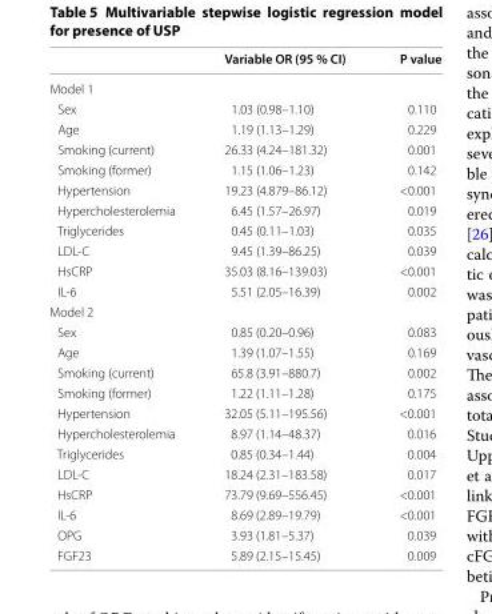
<table><thead><tr><td></td><td>Variable OR (95 % CI)</td><td>P value</td></tr></thead><tbody><tr><td colspan="3">Model 1</td></tr><tr><td>Sex</td><td>1.03 (0.98–1.10)</td><td>0.110</td></tr><tr><td>Age</td><td>1.19 (1.13–1.29)</td><td>0.229</td></tr><tr><td>Smoking (current)</td><td>26.33 (4.24–181.32)</td><td>0.001</td></tr><tr><td>Smoking (former)</td><td>1.15 (1.06–1.23)</td><td>0.142</td></tr><tr><td>Hypertension</td><td>19.23 (4.879–86.12)</td><td>&lt;0.001</td></tr><tr><td>Hypercholesterolemia</td><td>6.45 (1.57–26.97)</td><td>0.019</td></tr><tr><td>Triglycerides</td><td>0.45 (0.11–1.03)</td><td>0.035</td></tr><tr><td>LDL-C</td><td>9.45 (1.39–86.25)</td><td>0.039</td></tr><tr><td>HsCRP</td><td>35.03 (8.16–139.03)</td><td>&lt;0.001</td></tr><tr><td>IL-6</td><td>5.51 (2.05–16.39)</td><td>0.002</td></tr><tr><td colspan="3">Model 2</td></tr><tr><td>Sex</td><td>0.85 (0.20–0.96)</td><td>0.083</td></tr><tr><td>Age</td><td>1.39 (1.07–1.55)</td><td>0.169</td></tr><tr><td>Smoking (current)</td><td>65.8 (3.91–880.7)</td><td>0.002</td></tr><tr><td>Smoking (former)</td><td>1.22 (1.11–1.28)</td><td>0.175</td></tr><tr><td>Hypertension</td><td>32.05 (5.11–195.56)</td><td>&lt;0.001</td></tr><tr><td>Hypercholesterolemia</td><td>8.97 (1.14–48.37)</td><td>0.016</td></tr><tr><td>Triglycerides</td><td>0.85 (0.34–1.44)</td><td>0.004</td></tr><tr><td>LDL-C</td><td>18.24 (2.31–183.58)</td><td>0.017</td></tr><tr><td>HsCRP</td><td>73.79 (9.69–556.45)</td><td>&lt;0.001</td></tr><tr><td>IL-6</td><td>8.69 (2.89–19.79)</td><td>&lt;0.001</td></tr><tr><td>OPG</td><td>3.93 (1.81–5.37)</td><td>0.039</td></tr><tr><td>FGF23</td><td>5.89 (2.15–15.45)</td><td>0.009</td></tr></tbody></table>